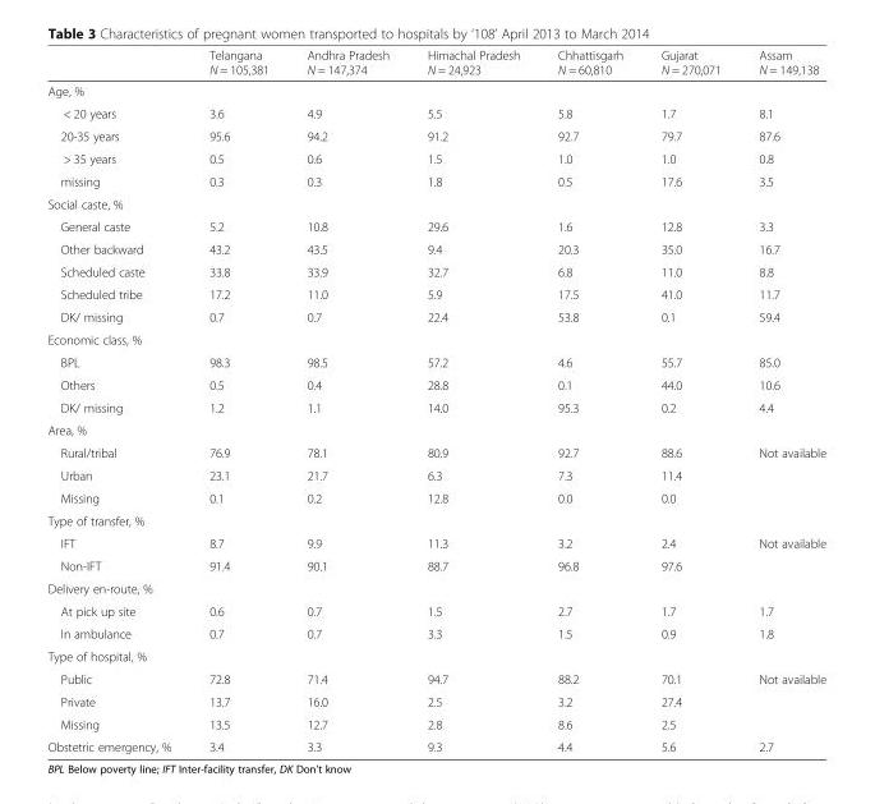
<table><thead><tr><td></td><td>Telangana N = 105,381</td><td>Andhra Pradesh N = 147,374</td><td>Himachal Pradesh N = 24,923</td><td>Chhattisgarh N = 60,810</td><td>Gujarat N = 270,071</td><td>Assam N = 149,138</td></tr></thead><tbody><tr><td colspan="7">Age, %</td></tr><tr><td>&lt; 20 years</td><td>3.6</td><td>4.9</td><td>5.5</td><td>5.8</td><td>1.7</td><td>8.1</td></tr><tr><td>20-35 years</td><td>95.6</td><td>94.2</td><td>91.2</td><td>92.7</td><td>79.7</td><td>87.6</td></tr><tr><td>&gt; 35 years</td><td>0.5</td><td>0.6</td><td>1.5</td><td>1.0</td><td>1.0</td><td>0.8</td></tr><tr><td>missing</td><td>0.3</td><td>0.3</td><td>1.8</td><td>0.5</td><td>17.6</td><td>3.5</td></tr><tr><td colspan="7">Social caste, %</td></tr><tr><td>General caste</td><td>5.2</td><td>10.8</td><td>29.6</td><td>1.6</td><td>12.8</td><td>3.3</td></tr><tr><td>Other backward</td><td>43.2</td><td>43.5</td><td>9.4</td><td>20.3</td><td>35.0</td><td>16.7</td></tr><tr><td>Scheduled caste</td><td>33.8</td><td>33.9</td><td>32.7</td><td>6.8</td><td>11.0</td><td>8.8</td></tr><tr><td>Scheduled tribe</td><td>17.2</td><td>11.0</td><td>5.9</td><td>17.5</td><td>41.0</td><td>11.7</td></tr><tr><td>DK/ missing</td><td>0.7</td><td>0.7</td><td>22.4</td><td>53.8</td><td>0.1</td><td>59.4</td></tr><tr><td colspan="7">Economic class, %</td></tr><tr><td>BPL</td><td>98.3</td><td>98.5</td><td>57.2</td><td>4.6</td><td>55.7</td><td>85.0</td></tr><tr><td>Others</td><td>0.5</td><td>0.4</td><td>28.8</td><td>0.1</td><td>44.0</td><td>10.6</td></tr><tr><td>DK/ missing</td><td>1.2</td><td>1.1</td><td>14.0</td><td>95.3</td><td>0.2</td><td>4.4</td></tr><tr><td colspan="7">Area, %</td></tr><tr><td>Rural/tribal</td><td>76.9</td><td>78.1</td><td>80.9</td><td>92.7</td><td>88.6</td><td>Not available</td></tr><tr><td>Urban</td><td>23.1</td><td>21.7</td><td>6.3</td><td>7.3</td><td>11.4</td><td></td></tr><tr><td>Missing</td><td>0.1</td><td>0.2</td><td>12.8</td><td>0.0</td><td>0.0</td><td></td></tr><tr><td colspan="7">Type of transfer, %</td></tr><tr><td>IFT</td><td>8.7</td><td>9.9</td><td>11.3</td><td>3.2</td><td>2.4</td><td>Not available</td></tr><tr><td>Non-IFT</td><td>91.4</td><td>90.1</td><td>88.7</td><td>96.8</td><td>97.6</td><td></td></tr><tr><td colspan="7">Delivery en-route, %</td></tr><tr><td>At pick up site</td><td>0.6</td><td>0.7</td><td>1.5</td><td>2.7</td><td>1.7</td><td>1.7</td></tr><tr><td>In ambulance</td><td>0.7</td><td>0.7</td><td>3.3</td><td>1.5</td><td>0.9</td><td>1.8</td></tr><tr><td colspan="7">Type of hospital, %</td></tr><tr><td>Public</td><td>72.8</td><td>71.4</td><td>94.7</td><td>88.2</td><td>70.1</td><td>Not available</td></tr><tr><td>Private</td><td>13.7</td><td>16.0</td><td>2.5</td><td>3.2</td><td>27.4</td><td></td></tr><tr><td>Missing</td><td>13.5</td><td>12.7</td><td>2.8</td><td>8.6</td><td>2.5</td><td></td></tr><tr><td>Obstetric emergency, %</td><td>3.4</td><td>3.3</td><td>9.3</td><td>4.4</td><td>5.6</td><td>2.7</td></tr></tbody></table>